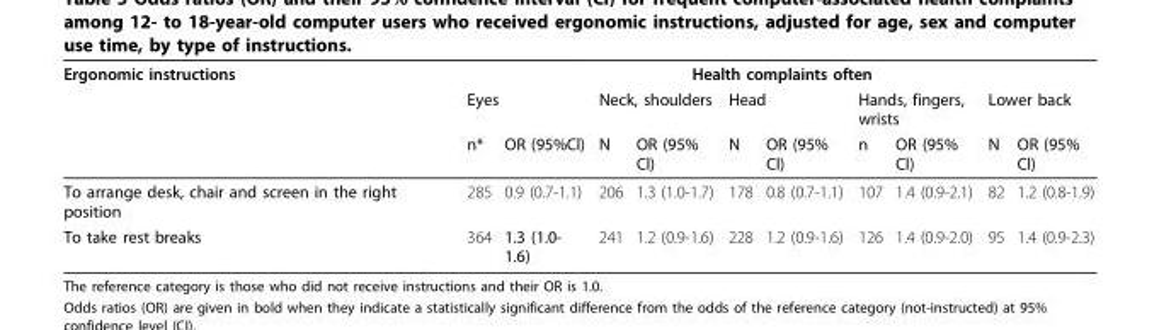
<table><thead><tr><td rowspan="3">Ergonomic instructions</td><td colspan="10">Health complaints often</td></tr><tr><td colspan="2">Eyes</td><td colspan="2">Neck, shoulders</td><td colspan="2">Head</td><td colspan="2">Hands, fingers, wrists</td><td colspan="2">Lower back</td></tr><tr><td>n*</td><td>OR (95%Cl)</td><td>N</td><td>OR (95% Cl)</td><td>N</td><td>OR (95% Cl)</td><td>n</td><td>OR (95% Cl)</td><td>N</td><td>OR (95% Cl)</td></tr></thead><tbody><tr><td>To arrange desk, chair and screen in the right position</td><td>285</td><td>0.9 (0.7-1.1)</td><td>206</td><td>1.3 (1.0-1.7)</td><td>178</td><td>0.8 (0.7-1.1)</td><td>107</td><td>1.4 (0.9-2.1)</td><td>82</td><td>1.2 (0.8-1.9)</td></tr><tr><td>To take rest breaks</td><td>364</td><td>1.3 (1.0- 1.6)</td><td>241</td><td>1.2 (0.9-1.6)</td><td>228</td><td>1.2 (0.9-1.6)</td><td>126</td><td>1.4 (0.9-2.0)</td><td>95</td><td>1.4 (0.9-2.3)</td></tr></tbody></table>